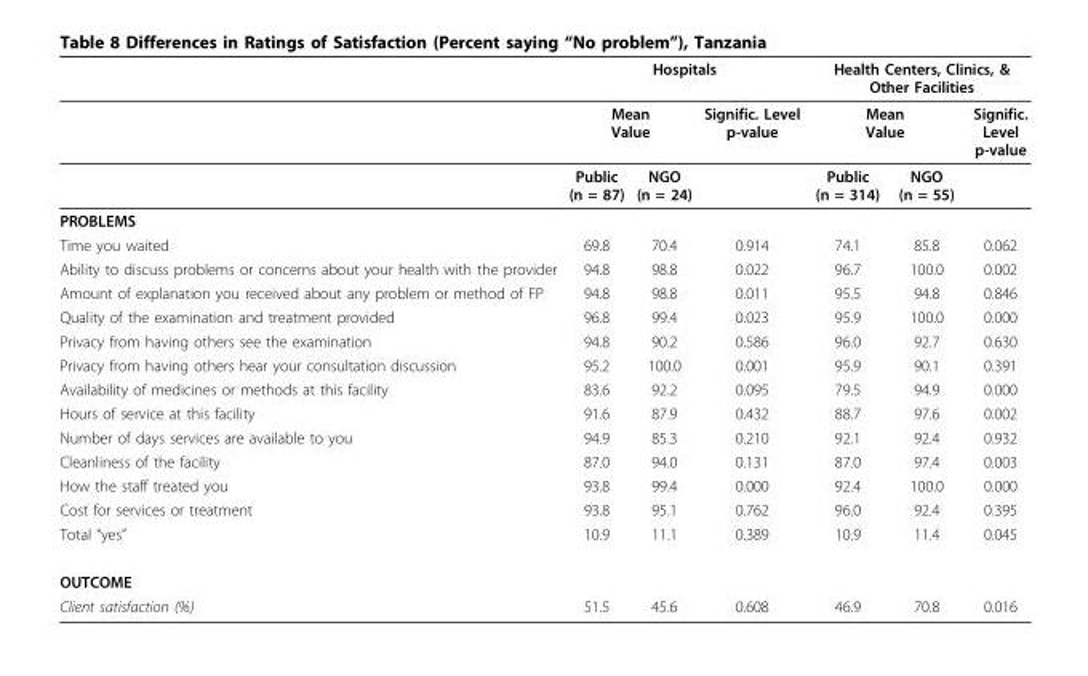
<table><thead><tr><td rowspan="3"></td><td colspan="3">Hospitals</td><td colspan="3">Health Centers, Clinics, &amp; Other Facilities</td></tr><tr><td colspan="2">Mean Value</td><td rowspan="2">Signific. Level p-value</td><td colspan="2">Mean Value</td><td rowspan="2">Signific. Level p-value</td></tr><tr><td>Public (n = 87)</td><td>NGO (n = 24)</td><td>Public (n = 314)</td><td>NGO (n = 55)</td></tr></thead><tbody><tr><td colspan="7">PROBLEMS</td></tr><tr><td>Time you waited</td><td>69.8</td><td>70.4</td><td>0.914</td><td>74.1</td><td>85.8</td><td>0.062</td></tr><tr><td>Ability to discuss problems or concerns about your health with the provider</td><td>94.8</td><td>98.8</td><td>0.022</td><td>96.7</td><td>100.0</td><td>0.002</td></tr><tr><td>Amount of explanation you received about any problem or method of FP</td><td>94.8</td><td>98.8</td><td>0.011</td><td>95.5</td><td>94.8</td><td>0.846</td></tr><tr><td>Quality of the examination and treatment provided</td><td>96.8</td><td>99.4</td><td>0.023</td><td>95.9</td><td>100.0</td><td>0.000</td></tr><tr><td>Privacy from having others see the examination</td><td>94.8</td><td>90.2</td><td>0.586</td><td>96.0</td><td>92.7</td><td>0.630</td></tr><tr><td>Privacy from having others hear your consultation discussion</td><td>95.2</td><td>100.0</td><td>0.001</td><td>95.9</td><td>90.1</td><td>0.391</td></tr><tr><td>Availability of medicines or methods at this facility</td><td>83.6</td><td>92.2</td><td>0.095</td><td>79.5</td><td>94.9</td><td>0.000</td></tr><tr><td>Hours of service at this facility</td><td>91.6</td><td>87.9</td><td>0.432</td><td>88.7</td><td>97.6</td><td>0.002</td></tr><tr><td>Number of days services are available to you</td><td>94.9</td><td>85.3</td><td>0.210</td><td>92.1</td><td>92.4</td><td>0.932</td></tr><tr><td>Cleanliness of the facility</td><td>87.0</td><td>94.0</td><td>0.131</td><td>87.0</td><td>97.4</td><td>0.003</td></tr><tr><td>How the staff treated you</td><td>93.8</td><td>99.4</td><td>0.000</td><td>92.4</td><td>100.0</td><td>0.000</td></tr><tr><td>Cost for services or treatment</td><td>93.8</td><td>95.1</td><td>0.762</td><td>96.0</td><td>92.4</td><td>0.395</td></tr><tr><td>Total “yes”</td><td>10.9</td><td>11.1</td><td>0.389</td><td>10.9</td><td>11.4</td><td>0.045</td></tr><tr><td colspan="7">OUTCOME</td></tr><tr><td>Client satisfaction (%)</td><td>51.5</td><td>45.6</td><td>0.608</td><td>46.9</td><td>70.8</td><td>0.016</td></tr></tbody></table>